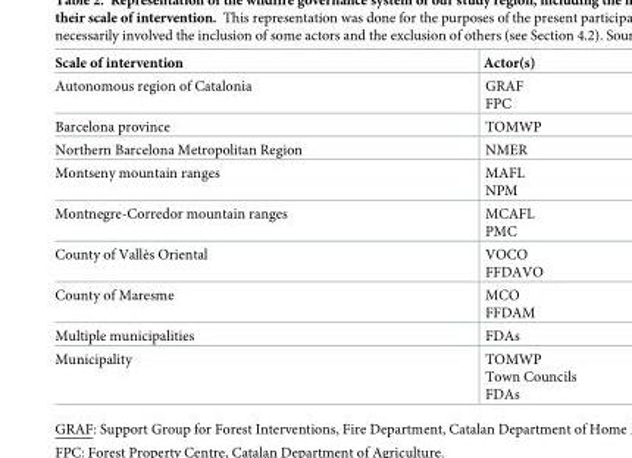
<table><thead><tr><td>Scale of intervention</td><td>Actor(s)</td></tr></thead><tbody><tr><td>Autonomous region of Catalonia</td><td>GRAF FPC</td></tr><tr><td>Barcelona province</td><td>TOMWP</td></tr><tr><td>Northern Barcelona Metropolitan Region</td><td>NMER</td></tr><tr><td>Montseny mountain ranges</td><td>MAFL NPM</td></tr><tr><td>Montnegre-Corredor mountain ranges</td><td>MCAFL PMC</td></tr><tr><td>County of Vallès Oriental</td><td>VOCO FFDAVO</td></tr><tr><td>County of Maresme</td><td>MCO FFDAM</td></tr><tr><td>Multiple municipalities</td><td>FDAs</td></tr><tr><td>Municipality</td><td>TOMWP Town Councils FDAs</td></tr></tbody></table>